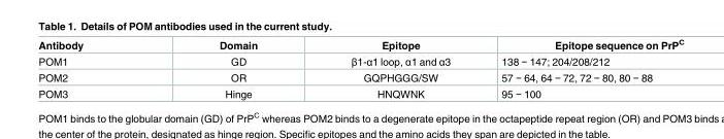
<table><thead><tr><td>Antibody</td><td>Domain</td><td>Epitope</td><td>Epitope sequence on PrP<sup>C</sup></td></tr></thead><tbody><tr><td>POM1</td><td>GD</td><td>β1-α1 loop, α1 and α3</td><td>138 − 147; 204/208/212</td></tr><tr><td>POM2</td><td>OR</td><td>GQPHGGG/SW</td><td>57 − 64, 64 − 72, 72 − 80, 80 − 88</td></tr><tr><td>POM3</td><td>Hinge</td><td>HNQWNK</td><td>95 − 100</td></tr></tbody></table>